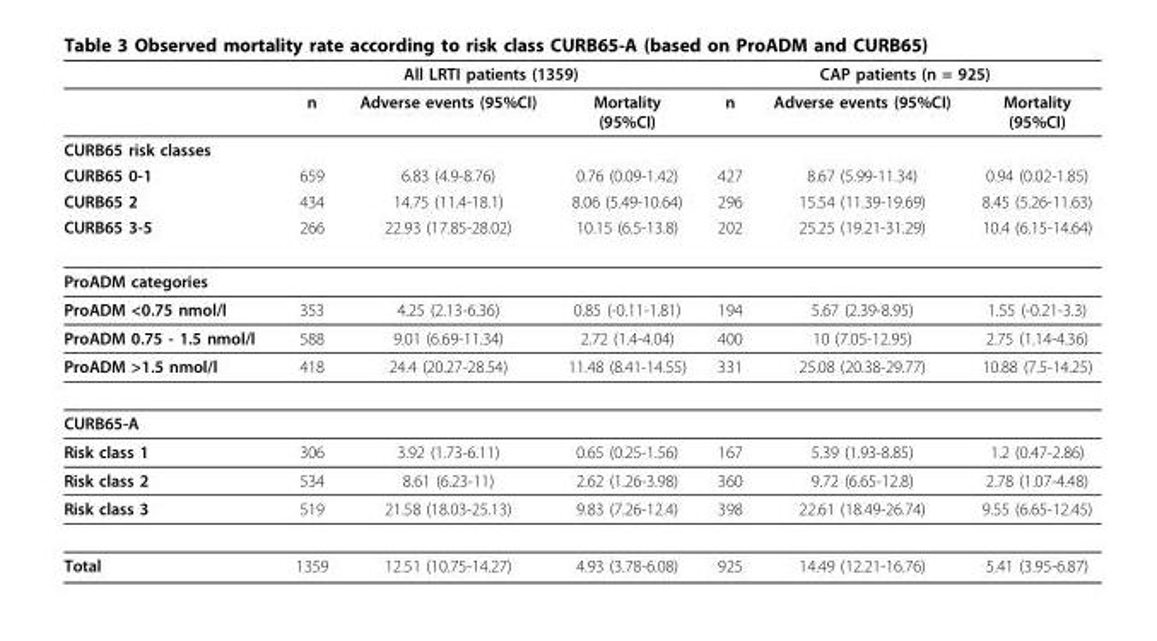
<table><thead><tr><td rowspan="2"></td><td colspan="3">All LRTI patients (1359)</td><td colspan="3">CAP patients (n = 925)</td></tr><tr><td>n</td><td>Adverse events (95%CI)</td><td>Mortality (95%CI)</td><td>n</td><td>Adverse events (95%CI)</td><td>Mortality (95%CI)</td></tr></thead><tbody><tr><td colspan="7">CURB65 risk classes</td></tr><tr><td>CURB65 0-1</td><td>659</td><td>6.83 (4.9-8.76)</td><td>0.76 (0.09-1.42)</td><td>427</td><td>8.67 (5.99-11.34)</td><td>0.94 (0.02-1.85)</td></tr><tr><td>CURB65 2</td><td>434</td><td>14.75 (11.4-18.1)</td><td>8.06 (5.49-10.64)</td><td>296</td><td>15.54 (11.39-19.69)</td><td>8.45 (5.26-11.63)</td></tr><tr><td>CURB65 3-5</td><td>266</td><td>22.93 (17.85-28.02)</td><td>10.15 (6.5-13.8)</td><td>202</td><td>25.25 (19.21-31.29)</td><td>10.4 (6.15-14.64)</td></tr><tr><td colspan="7">ProADM categories</td></tr><tr><td>ProADM &lt;0.75 nmol/l</td><td>353</td><td>4.25 (2.13-6.36)</td><td>0.85 (-0.11-1.81)</td><td>194</td><td>5.67 (2.39-8.95)</td><td>1.55 (-0.21-3.3)</td></tr><tr><td>ProADM 0.75 - 1.5 nmol/l</td><td>588</td><td>9.01 (6.69-11.34)</td><td>2.72 (1.4-4.04)</td><td>400</td><td>10 (7.05-12.95)</td><td>2.75 (1.14-4.36)</td></tr><tr><td>ProADM &gt;1.5 nmol/l</td><td>418</td><td>24.4 (20.27-28.54)</td><td>11.48 (8.41-14.55)</td><td>331</td><td>25.08 (20.38-29.77)</td><td>10.88 (7.5-14.25)</td></tr><tr><td colspan="7">CURB65-A</td></tr><tr><td>Risk class 1</td><td>306</td><td>3.92 (1.73-6.11)</td><td>0.65 (0.25-1.56)</td><td>167</td><td>5.39 (1.93-8.85)</td><td>1.2 (0.47-2.86)</td></tr><tr><td>Risk class 2</td><td>534</td><td>8.61 (6.23-11)</td><td>2.62 (1.26-3.98)</td><td>360</td><td>9.72 (6.65-12.8)</td><td>2.78 (1.07-4.48)</td></tr><tr><td>Risk class 3</td><td>519</td><td>21.58 (18.03-25.13)</td><td>9.83 (7.26-12.4)</td><td>398</td><td>22.61 (18.49-26.74)</td><td>9.55 (6.65-12.45)</td></tr><tr><td>Total</td><td>1359</td><td>12.51 (10.75-14.27)</td><td>4.93 (3.78-6.08)</td><td>925</td><td>14.49 (12.21-16.76)</td><td>5.41 (3.95-6.87)</td></tr></tbody></table>